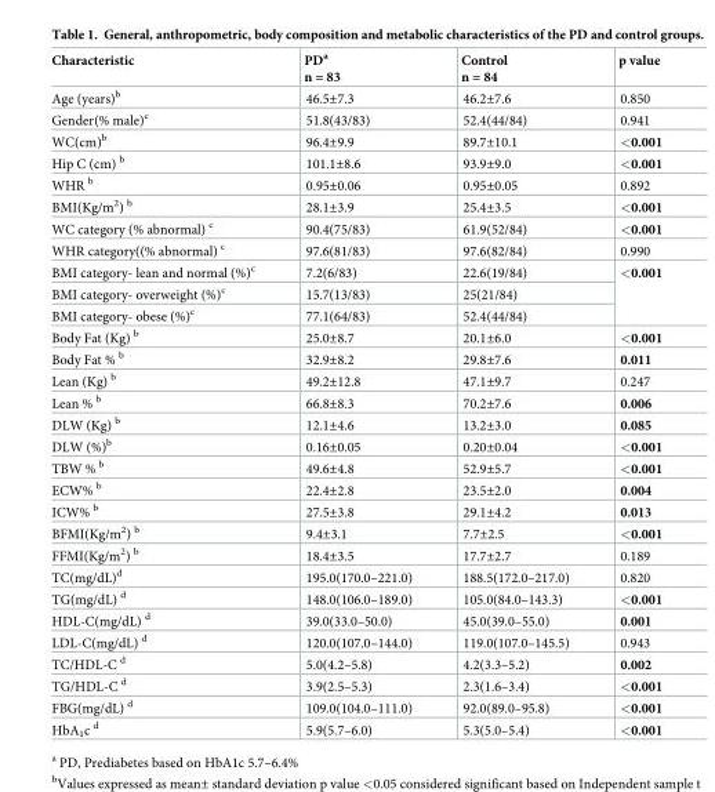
<table><thead><tr><td>Characteristic</td><td>PD<sup>a</sup> n = 83</td><td>Control n = 84</td><td>p value</td></tr></thead><tbody><tr><td>Age (years)<sup>b</sup></td><td>46.5±7.3</td><td>46.2±7.6</td><td>0.850</td></tr><tr><td>Gender(% male)<sup>c</sup></td><td>51.8(43/83)</td><td>52.4(44/84)</td><td>0.941</td></tr><tr><td>WC(cm)<sup>b</sup></td><td>96.4±9.9</td><td>89.7±10.1</td><td>&lt;0.001</td></tr><tr><td>Hip C (cm) <sup>b</sup></td><td>101.1±8.6</td><td>93.9±9.0</td><td>&lt;0.001</td></tr><tr><td>WHR <sup>b</sup></td><td>0.95±0.06</td><td>0.95±0.05</td><td>0.892</td></tr><tr><td>BMI(Kg/m<sup>2</sup>) <sup>b</sup></td><td>28.1±3.9</td><td>25.4±3.5</td><td>&lt;0.001</td></tr><tr><td>WC category (% abnormal) <sup>c</sup></td><td>90.4(75/83)</td><td>61.9(52/84)</td><td>&lt;0.001</td></tr><tr><td>WHR category((% abnormal) <sup>c</sup></td><td>97.6(81/83)</td><td>97.6(82/84)</td><td>0.990</td></tr><tr><td>BMI category- lean and normal (%)<sup>c</sup></td><td>7.2(6/83)</td><td>22.6(19/84)</td><td rowspan="3">&lt;0.001</td></tr><tr><td>BMI category- overweight (%)<sup>c</sup></td><td>15.7(13/83)</td><td>25(21/84)</td></tr><tr><td>BMI category- obese (%)<sup>c</sup></td><td>77.1(64/83)</td><td>52.4(44/84)</td></tr><tr><td>Body Fat (Kg) <sup>b</sup></td><td>25.0±8.7</td><td>20.1±6.0</td><td>&lt;0.001</td></tr><tr><td>Body Fat % <sup>b</sup></td><td>32.9±8.2</td><td>29.8±7.6</td><td>0.011</td></tr><tr><td>Lean (Kg) <sup>b</sup></td><td>49.2±12.8</td><td>47.1±9.7</td><td>0.247</td></tr><tr><td>Lean % <sup>b</sup></td><td>66.8±8.3</td><td>70.2±7.6</td><td>0.006</td></tr><tr><td>DLW (Kg) <sup>b</sup></td><td>12.1±4.6</td><td>13.2±3.0</td><td>0.085</td></tr><tr><td>DLW (%)<sup>b</sup></td><td>0.16±0.05</td><td>0.20±0.04</td><td>&lt;0.001</td></tr><tr><td>TBW % <sup>b</sup></td><td>49.6±4.8</td><td>52.9±5.7</td><td>&lt;0.001</td></tr><tr><td>ECW% <sup>b</sup></td><td>22.4±2.8</td><td>23.5±2.0</td><td>0.004</td></tr><tr><td>ICW% <sup>b</sup></td><td>27.5±3.8</td><td>29.1±4.2</td><td>0.013</td></tr><tr><td>BFMI(Kg/m<sup>2</sup>) <sup>b</sup></td><td>9.4±3.1</td><td>7.7±2.5</td><td>&lt;0.001</td></tr><tr><td>FFMI(Kg/m<sup>2</sup>) <sup>b</sup></td><td>18.4±3.5</td><td>17.7±2.7</td><td>0.189</td></tr><tr><td>TC(mg/dL)<sup>d</sup></td><td>195.0(170.0–221.0)</td><td>188.5(172.0–217.0)</td><td>0.820</td></tr><tr><td>TG(mg/dL) <sup>d</sup></td><td>148.0(106.0–189.0)</td><td>105.0(84.0–143.3)</td><td>&lt;0.001</td></tr><tr><td>HDL-C(mg/dL) <sup>d</sup></td><td>39.0(33.0–50.0)</td><td>45.0(39.0–55.0)</td><td>0.001</td></tr><tr><td>LDL-C(mg/dL) <sup>d</sup></td><td>120.0(107.0–144.0)</td><td>119.0(107.0–145.5)</td><td>0.943</td></tr><tr><td>TC/HDL-C <sup>d</sup></td><td>5.0(4.2–5.8)</td><td>4.2(3.3–5.2)</td><td>0.002</td></tr><tr><td>TG/HDL-C <sup>d</sup></td><td>3.9(2.5–5.3)</td><td>2.3(1.6–3.4)</td><td>&lt;0.001</td></tr><tr><td>FBG(mg/dL) <sup>d</sup></td><td>109.0(104.0–111.0)</td><td>92.0(89.0–95.8)</td><td>&lt;0.001</td></tr><tr><td>HbA<sub>1</sub>c <sup>d</sup></td><td>5.9(5.7–6.0)</td><td>5.3(5.0–5.4)</td><td>&lt;0.001</td></tr></tbody></table>